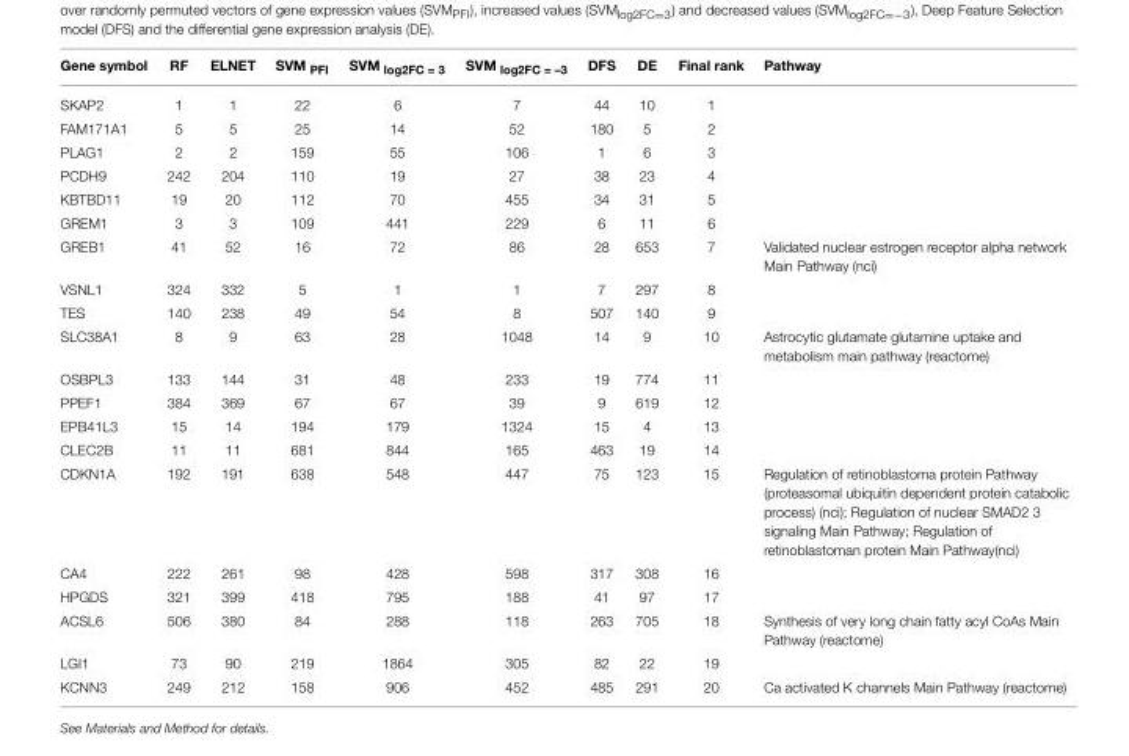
<table><thead><tr><td>Gene symbol</td><td>RF</td><td>ELNET</td><td>SVM <sub>PFI</sub></td><td>SVM <sub>log2FC = 3</sub></td><td>SVM <sub>log2FC = –3</sub></td><td>DFS</td><td>DE</td><td>Final rank</td><td>Pathway</td></tr></thead><tbody><tr><td>SKAP2</td><td>1</td><td>1</td><td>22</td><td>6</td><td>7</td><td>44</td><td>10</td><td>1</td><td></td></tr><tr><td>FAM171A1</td><td>5</td><td>5</td><td>25</td><td>14</td><td>52</td><td>180</td><td>5</td><td>2</td><td></td></tr><tr><td>PLAG1</td><td>2</td><td>2</td><td>159</td><td>55</td><td>106</td><td>1</td><td>6</td><td>3</td><td></td></tr><tr><td>PCDH9</td><td>242</td><td>204</td><td>110</td><td>19</td><td>27</td><td>38</td><td>23</td><td>4</td><td></td></tr><tr><td>KBTBD11</td><td>19</td><td>20</td><td>112</td><td>70</td><td>455</td><td>34</td><td>31</td><td>5</td><td></td></tr><tr><td>GREM1</td><td>3</td><td>3</td><td>109</td><td>441</td><td>229</td><td>6</td><td>11</td><td>6</td><td></td></tr><tr><td>GREB1</td><td>41</td><td>52</td><td>16</td><td>72</td><td>86</td><td>28</td><td>653</td><td>7</td><td>Validated nuclear estrogen receptor alpha network Main Pathway (nci)</td></tr><tr><td>VSNL1</td><td>324</td><td>332</td><td>5</td><td>1</td><td>1</td><td>7</td><td>297</td><td>8</td><td></td></tr><tr><td>TES</td><td>140</td><td>238</td><td>49</td><td>54</td><td>8</td><td>507</td><td>140</td><td>9</td><td></td></tr><tr><td>SLC38A1</td><td>8</td><td>9</td><td>63</td><td>28</td><td>1048</td><td>14</td><td>9</td><td>10</td><td>Astrocytic glutamate glutamine uptake and metabolism main pathway (reactome)</td></tr><tr><td>OSBPL3</td><td>133</td><td>144</td><td>31</td><td>48</td><td>233</td><td>19</td><td>774</td><td>11</td><td></td></tr><tr><td>PPEF1</td><td>384</td><td>369</td><td>67</td><td>67</td><td>39</td><td>9</td><td>619</td><td>12</td><td></td></tr><tr><td>EPB41L3</td><td>15</td><td>14</td><td>194</td><td>179</td><td>1324</td><td>15</td><td>4</td><td>13</td><td></td></tr><tr><td>CLEC2B</td><td>11</td><td>11</td><td>681</td><td>844</td><td>165</td><td>463</td><td>19</td><td>14</td><td></td></tr><tr><td>CDKN1A</td><td>192</td><td>191</td><td>638</td><td>548</td><td>447</td><td>75</td><td>123</td><td>15</td><td>Regulation of retinoblastoma protein Pathway (proteasomal ubiquitin dependent protein catabolic process) (nci); Regulation of nuclear SMAD2 3 signaling Main Pathway; Regulation of retinoblastoman protein Main Pathway(nci)</td></tr><tr><td>CA4</td><td>222</td><td>261</td><td>98</td><td>428</td><td>598</td><td>317</td><td>308</td><td>16</td><td></td></tr><tr><td>HPGDS</td><td>321</td><td>399</td><td>418</td><td>795</td><td>188</td><td>41</td><td>97</td><td>17</td><td></td></tr><tr><td>ACSL6</td><td>506</td><td>380</td><td>84</td><td>288</td><td>118</td><td>263</td><td>705</td><td>18</td><td>Synthesis of very long chain fatty acyl CoAs Main Pathway (reactome)</td></tr><tr><td>LGI1</td><td>73</td><td>90</td><td>219</td><td>1864</td><td>305</td><td>82</td><td>22</td><td>19</td><td></td></tr><tr><td>KCNN3</td><td>249</td><td>212</td><td>158</td><td>906</td><td>452</td><td>485</td><td>291</td><td>20</td><td>Ca activated K channels Main Pathway (reactome)</td></tr></tbody></table>